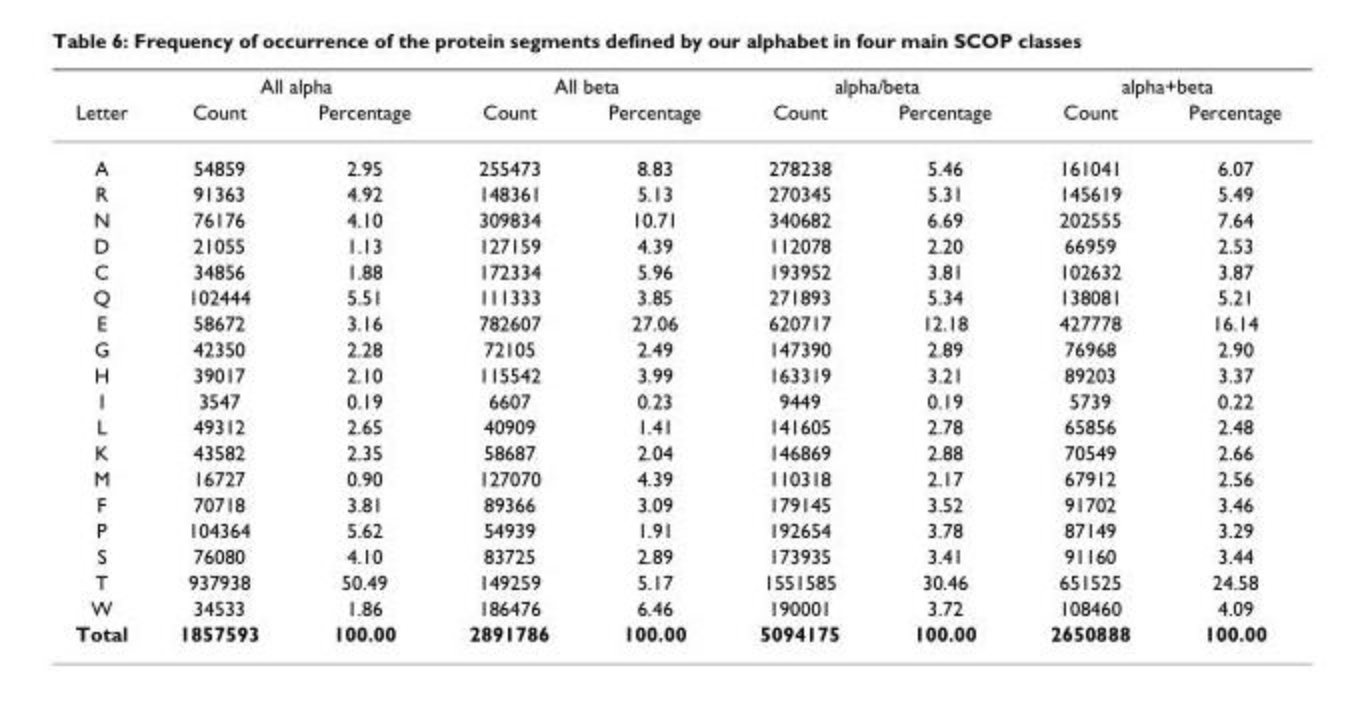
<table><thead><tr><td rowspan="2">Letter</td><td colspan="2">All alpha</td><td colspan="2">All beta</td><td colspan="2">alpha/beta</td><td colspan="2">alpha+beta</td></tr><tr><td>Count</td><td>Percentage</td><td>Count</td><td>Percentage</td><td>Count</td><td>Percentage</td><td>Count</td><td>Percentage</td></tr></thead><tbody><tr><td>A</td><td>54859</td><td>2.95</td><td>255473</td><td>8.83</td><td>278238</td><td>5.46</td><td>161041</td><td>6.07</td></tr><tr><td>R</td><td>91363</td><td>4.92</td><td>148361</td><td>5.13</td><td>270345</td><td>5.31</td><td>145619</td><td>5.49</td></tr><tr><td>N</td><td>76176</td><td>4.10</td><td>309834</td><td>10.71</td><td>340682</td><td>6.69</td><td>202555</td><td>7.64</td></tr><tr><td>D</td><td>21055</td><td>1.13</td><td>127159</td><td>4.39</td><td>112078</td><td>2.20</td><td>66959</td><td>2.53</td></tr><tr><td>C</td><td>34856</td><td>1.88</td><td>172334</td><td>5.96</td><td>193952</td><td>3.81</td><td>102632</td><td>3.87</td></tr><tr><td>Q</td><td>102444</td><td>5.51</td><td>111333</td><td>3.85</td><td>271893</td><td>5.34</td><td>138081</td><td>5.21</td></tr><tr><td>E</td><td>58672</td><td>3.16</td><td>782607</td><td>27.06</td><td>620717</td><td>12.18</td><td>427778</td><td>16.14</td></tr><tr><td>G</td><td>42350</td><td>2.28</td><td>72105</td><td>2.49</td><td>147390</td><td>2.89</td><td>76968</td><td>2.90</td></tr><tr><td>H</td><td>39017</td><td>2.10</td><td>115542</td><td>3.99</td><td>163319</td><td>3.21</td><td>89203</td><td>3.37</td></tr><tr><td>I</td><td>3547</td><td>0.19</td><td>6607</td><td>0.23</td><td>9449</td><td>0.19</td><td>5739</td><td>0.22</td></tr><tr><td>L</td><td>49312</td><td>2.65</td><td>40909</td><td>1.41</td><td>141605</td><td>2.78</td><td>65856</td><td>2.48</td></tr><tr><td>K</td><td>43582</td><td>2.35</td><td>58687</td><td>2.04</td><td>146869</td><td>2.88</td><td>70549</td><td>2.66</td></tr><tr><td>M</td><td>16727</td><td>0.90</td><td>127070</td><td>4.39</td><td>110318</td><td>2.17</td><td>67912</td><td>2.56</td></tr><tr><td>F</td><td>70718</td><td>3.81</td><td>89366</td><td>3.09</td><td>179145</td><td>3.52</td><td>91702</td><td>3.46</td></tr><tr><td>P</td><td>104364</td><td>5.62</td><td>54939</td><td>1.91</td><td>192654</td><td>3.78</td><td>87149</td><td>3.29</td></tr><tr><td>S</td><td>76080</td><td>4.10</td><td>83725</td><td>2.89</td><td>173935</td><td>3.41</td><td>91160</td><td>3.44</td></tr><tr><td>T</td><td>937938</td><td>50.49</td><td>149259</td><td>5.17</td><td>1551585</td><td>30.46</td><td>651525</td><td>24.58</td></tr><tr><td>W</td><td>34533</td><td>1.86</td><td>186476</td><td>6.46</td><td>190001</td><td>3.72</td><td>108460</td><td>4.09</td></tr><tr><td>Total</td><td>1857593</td><td>100.00</td><td>2891786</td><td>100.00</td><td>5094175</td><td>100.00</td><td>2650888</td><td>100.00</td></tr></tbody></table>